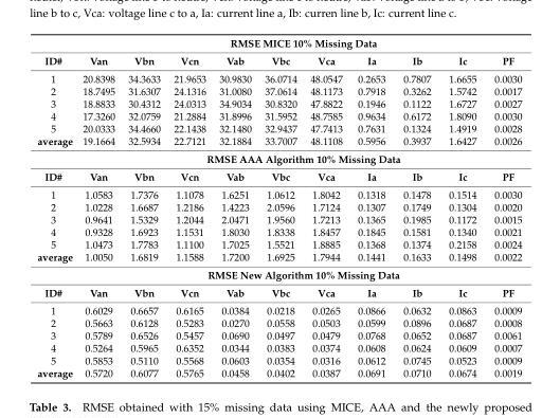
<table><thead><tr><td rowspan="2">ID#</td><td colspan="10">RMSE MICE 10% Missing Data</td></tr><tr><td>Van</td><td>Vbn</td><td>Vcn</td><td>Vab</td><td>Vbc</td><td>Vca</td><td>Ia</td><td>Ib</td><td>Ic</td><td>PF</td></tr></thead><tbody><tr><td>1</td><td>20.8398</td><td>34.3633</td><td>21.9653</td><td>30.9830</td><td>36.0714</td><td>48.0547</td><td>0.2653</td><td>0.7807</td><td>1.6655</td><td>0.0030</td></tr><tr><td>2</td><td>18.7495</td><td>31.6307</td><td>24.1316</td><td>31.0080</td><td>37.0614</td><td>48.1173</td><td>0.7918</td><td>0.3262</td><td>1.5742</td><td>0.0017</td></tr><tr><td>3</td><td>18.8833</td><td>30.4312</td><td>24.0313</td><td>34.9034</td><td>30.8320</td><td>47.8822</td><td>0.1946</td><td>0.1122</td><td>1.6727</td><td>0.0027</td></tr><tr><td>4</td><td>17.3260</td><td>32.0759</td><td>21.2884</td><td>31.8996</td><td>31.5952</td><td>48.7585</td><td>0.9634</td><td>0.6172</td><td>1.8090</td><td>0.0030</td></tr><tr><td>5</td><td>20.0333</td><td>34.4660</td><td>22.1438</td><td>32.1480</td><td>32.9437</td><td>47.7413</td><td>0.7631</td><td>0.1324</td><td>1.4919</td><td>0.0028</td></tr><tr><td rowspan="2">average</td><td>19.1664</td><td>32.5934</td><td>22.7121</td><td>32.1884</td><td>33.7007</td><td>48.1108</td><td>0.5956</td><td>0.3937</td><td>1.6427</td><td>0.0026</td></tr><tr><td colspan="10">RMSE AAA Algorithm 10% Missing Data</td></tr><tr><td>ID#</td><td>Van</td><td>Vbn</td><td>Vcn</td><td>Vab</td><td>Vbc</td><td>Vca</td><td>Ia</td><td>Ib</td><td>Ic</td><td>PF</td></tr><tr><td>1</td><td>1.0583</td><td>1.7376</td><td>1.1078</td><td>1.6251</td><td>1.0612</td><td>1.8042</td><td>0.1318</td><td>0.1478</td><td>0.1514</td><td>0.0030</td></tr><tr><td>2</td><td>1.0228</td><td>1.6687</td><td>1.2186</td><td>1.4223</td><td>2.0596</td><td>1.7124</td><td>0.1307</td><td>0.1749</td><td>0.1304</td><td>0.0020</td></tr><tr><td>3</td><td>0.9641</td><td>1.5329</td><td>1.2044</td><td>2.0471</td><td>1.9560</td><td>1.7213</td><td>0.1365</td><td>0.1985</td><td>0.1172</td><td>0.0015</td></tr><tr><td>4</td><td>0.9328</td><td>1.6923</td><td>1.1531</td><td>1.8030</td><td>1.8338</td><td>1.8457</td><td>0.1845</td><td>0.1581</td><td>0.1340</td><td>0.0021</td></tr><tr><td>5</td><td>1.0473</td><td>1.7783</td><td>1.1100</td><td>1.7025</td><td>1.5521</td><td>1.8885</td><td>0.1368</td><td>0.1374</td><td>0.2158</td><td>0.0024</td></tr><tr><td rowspan="2">average</td><td>1.0050</td><td>1.6819</td><td>1.1588</td><td>1.7200</td><td>1.6925</td><td>1.7944</td><td>0.1441</td><td>0.1633</td><td>0.1498</td><td>0.0022</td></tr><tr><td colspan="10">RMSE New Algorithm 10% Missing Data</td></tr><tr><td>ID#</td><td>Van</td><td>Vbn</td><td>Vcn</td><td>Vab</td><td>Vbc</td><td>Vca</td><td>Ia</td><td>Ib</td><td>Ic</td><td>PF</td></tr><tr><td>1</td><td>0.6029</td><td>0.6657</td><td>0.6165</td><td>0.0384</td><td>0.0218</td><td>0.0265</td><td>0.0866</td><td>0.0632</td><td>0.0863</td><td>0.0009</td></tr><tr><td>2</td><td>0.5663</td><td>0.6128</td><td>0.5283</td><td>0.0270</td><td>0.0558</td><td>0.0503</td><td>0.0599</td><td>0.0896</td><td>0.0687</td><td>0.0008</td></tr><tr><td>3</td><td>0.5789</td><td>0.6526</td><td>0.5457</td><td>0.0690</td><td>0.0497</td><td>0.0479</td><td>0.0768</td><td>0.0652</td><td>0.0687</td><td>0.0061</td></tr><tr><td>4</td><td>0.5264</td><td>0.5965</td><td>0.6352</td><td>0.0344</td><td>0.0383</td><td>0.0374</td><td>0.0608</td><td>0.0624</td><td>0.0609</td><td>0.0007</td></tr><tr><td>5</td><td>0.5853</td><td>0.5110</td><td>0.5568</td><td>0.0603</td><td>0.0354</td><td>0.0316</td><td>0.0612</td><td>0.0745</td><td>0.0523</td><td>0.0009</td></tr><tr><td>average</td><td>0.5720</td><td>0.6077</td><td>0.5765</td><td>0.0458</td><td>0.0402</td><td>0.0387</td><td>0.0691</td><td>0.0710</td><td>0.0674</td><td>0.0019</td></tr></tbody></table>